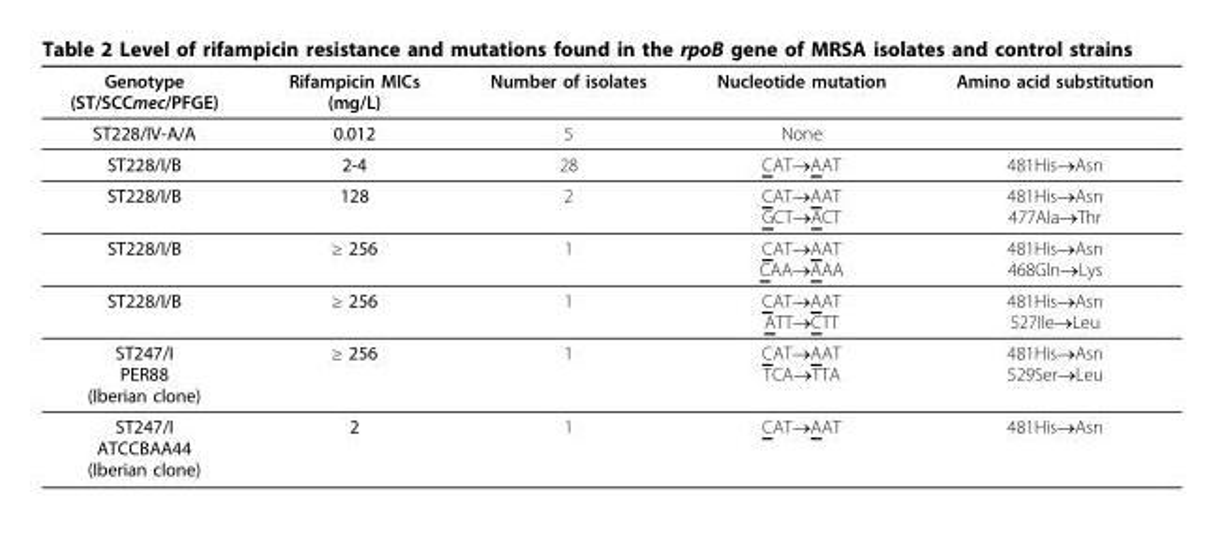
<table><thead><tr><td>Genotype (ST/SCCmec/PFGE)</td><td>Rifampicin MICs (mg/L)</td><td>Number of isolates</td><td>Nucleotide mutation</td><td>Amino acid substitution</td></tr></thead><tbody><tr><td>ST228/IV-A/A</td><td>0.012</td><td>5</td><td>None</td><td></td></tr><tr><td>ST228/I/B</td><td>2-4</td><td>28</td><td>CAT→AAT</td><td>481His→Asn</td></tr><tr><td>ST228/I/B</td><td>128</td><td>2</td><td>CAT→AAT GCT→ACT</td><td>481His→Asn 477Ala→Thr</td></tr><tr><td>ST228/I/B</td><td>≥ 256</td><td>1</td><td>CAT→AAT CAA→AAA</td><td>481His→Asn 468Gln→Lys</td></tr><tr><td>ST228/I/B</td><td>≥ 256</td><td>1</td><td>CAT→AAT ATT→CTT</td><td>481His→Asn 527Ile→Leu</td></tr><tr><td>ST247/I PER88 (Iberian clone)</td><td>≥ 256</td><td>1</td><td>CAT→AAT TCA→TTA</td><td>481His→Asn 529Ser→Leu</td></tr><tr><td>ST247/I ATCCBAA44 (Iberian clone)</td><td>2</td><td>1</td><td>CAT→AAT</td><td>481His→Asn</td></tr></tbody></table>